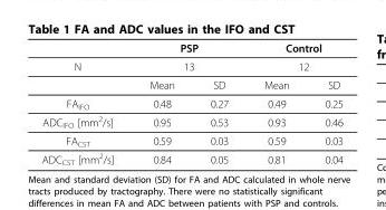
<table><thead><tr><td rowspan="3">N</td><td rowspan="2" colspan="2">PSP 13</td><td rowspan="2" colspan="2">Control 12</td></tr><tr></tr><tr><td>Mean</td><td>SD</td><td>Mean</td><td>SD</td></tr></thead><tbody><tr><td>FA<sub>IFO</sub></td><td>0.48</td><td>0.27</td><td>0.49</td><td>0.25</td></tr><tr><td>ADC<sub>IFO</sub> [mm<sup>2</sup>/s]</td><td>0.95</td><td>0.53</td><td>0.93</td><td>0.46</td></tr><tr><td>FA<sub>CST</sub></td><td>0.59</td><td>0.03</td><td>0.59</td><td>0.03</td></tr><tr><td>ADC<sub>CST</sub> [mm<sup>2</sup>/s]</td><td>0.84</td><td>0.05</td><td>0.81</td><td>0.04</td></tr></tbody></table>